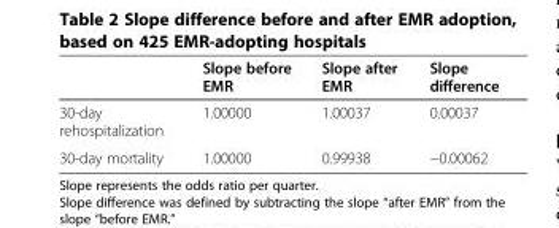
<table><thead><tr><td></td><td>Slope before EMR</td><td>Slope after EMR</td><td>Slope difference</td></tr></thead><tbody><tr><td>30-day rehospitalization</td><td>1.00000</td><td>1.00037</td><td>0.00037</td></tr><tr><td>30-day mortality</td><td>1.00000</td><td>0.99938</td><td>−0.00062</td></tr></tbody></table>